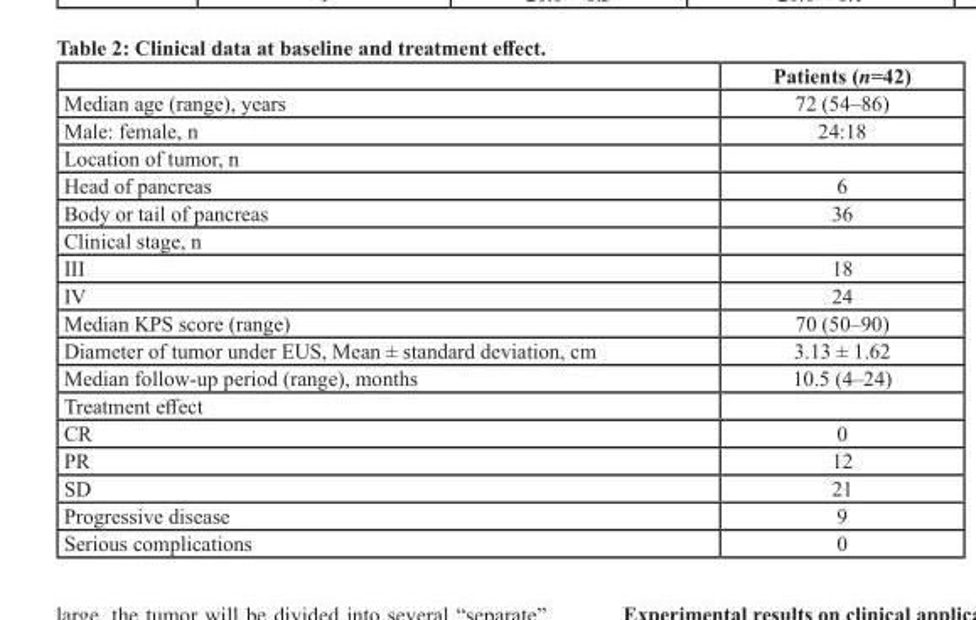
<table><thead><tr><td></td><td>Patients (n=42)</td></tr></thead><tbody><tr><td>Median age (range), years</td><td>72 (54–86)</td></tr><tr><td>Male: female, n</td><td>24:18</td></tr><tr><td colspan="2">Location of tumor, n</td></tr><tr><td>Head of pancreas</td><td>6</td></tr><tr><td>Body or tail of pancreas</td><td>36</td></tr><tr><td colspan="2">Clinical stage, n</td></tr><tr><td>III</td><td>18</td></tr><tr><td>IV</td><td>24</td></tr><tr><td>Median KPS score (range)</td><td>70 (50–90)</td></tr><tr><td>Diameter of tumor under EUS, Mean ± standard deviation, cm</td><td>3.13 ± 1.62</td></tr><tr><td>Median follow-up period (range), months</td><td>10.5 (4–24)</td></tr><tr><td colspan="2">Treatment effect</td></tr><tr><td>CR</td><td>0</td></tr><tr><td>PR</td><td>12</td></tr><tr><td>SD</td><td>21</td></tr><tr><td>Progressive disease</td><td>9</td></tr><tr><td>Serious complications</td><td>0</td></tr></tbody></table>